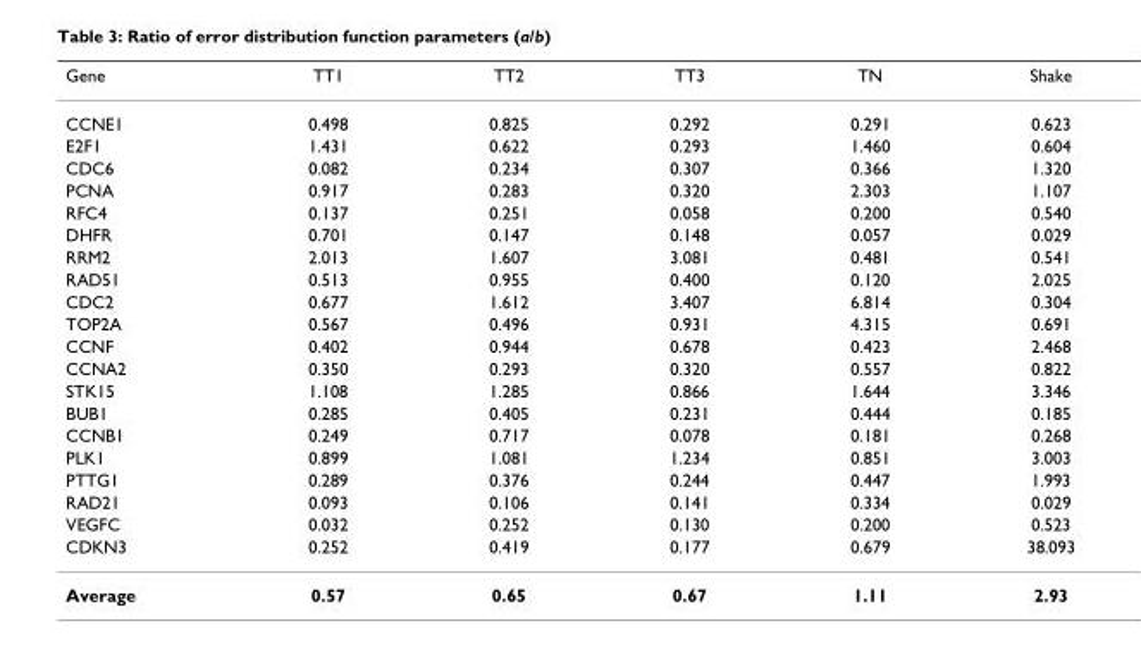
<table><thead><tr><td>Gene</td><td>TT1</td><td>TT2</td><td>TT3</td><td>TN</td><td>Shake</td></tr></thead><tbody><tr><td>CCNE1</td><td>0.498</td><td>0.825</td><td>0.292</td><td>0.291</td><td>0.623</td></tr><tr><td>E2F1</td><td>1.431</td><td>0.622</td><td>0.293</td><td>1.460</td><td>0.604</td></tr><tr><td>CDC6</td><td>0.082</td><td>0.234</td><td>0.307</td><td>0.366</td><td>1.320</td></tr><tr><td>PCNA</td><td>0.917</td><td>0.283</td><td>0.320</td><td>2.303</td><td>1.107</td></tr><tr><td>RFC4</td><td>0.137</td><td>0.251</td><td>0.058</td><td>0.200</td><td>0.540</td></tr><tr><td>DHFR</td><td>0.701</td><td>0.147</td><td>0.148</td><td>0.057</td><td>0.029</td></tr><tr><td>RRM2</td><td>2.013</td><td>1.607</td><td>3.081</td><td>0.481</td><td>0.541</td></tr><tr><td>RAD51</td><td>0.513</td><td>0.955</td><td>0.400</td><td>0.120</td><td>2.025</td></tr><tr><td>CDC2</td><td>0.677</td><td>1.612</td><td>3.407</td><td>6.814</td><td>0.304</td></tr><tr><td>TOP2A</td><td>0.567</td><td>0.496</td><td>0.931</td><td>4.315</td><td>0.691</td></tr><tr><td>CCNF</td><td>0.402</td><td>0.944</td><td>0.678</td><td>0.423</td><td>2.468</td></tr><tr><td>CCNA2</td><td>0.350</td><td>0.293</td><td>0.320</td><td>0.557</td><td>0.822</td></tr><tr><td>STK15</td><td>1.108</td><td>1.285</td><td>0.866</td><td>1.644</td><td>3.346</td></tr><tr><td>BUB1</td><td>0.285</td><td>0.405</td><td>0.231</td><td>0.444</td><td>0.185</td></tr><tr><td>CCNB1</td><td>0.249</td><td>0.717</td><td>0.078</td><td>0.181</td><td>0.268</td></tr><tr><td>PLK1</td><td>0.899</td><td>1.081</td><td>1.234</td><td>0.851</td><td>3.003</td></tr><tr><td>PTTG1</td><td>0.289</td><td>0.376</td><td>0.244</td><td>0.447</td><td>1.993</td></tr><tr><td>RAD21</td><td>0.093</td><td>0.106</td><td>0.141</td><td>0.334</td><td>0.029</td></tr><tr><td>VEGFC</td><td>0.032</td><td>0.252</td><td>0.130</td><td>0.200</td><td>0.523</td></tr><tr><td>CDKN3</td><td>0.252</td><td>0.419</td><td>0.177</td><td>0.679</td><td>38.093</td></tr><tr><td>Average</td><td>0.57</td><td>0.65</td><td>0.67</td><td>1.11</td><td>2.93</td></tr></tbody></table>